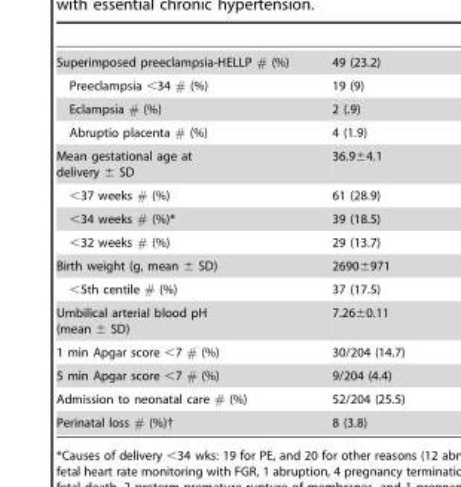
<table><tbody><tr><td>Superimposed preeclampsia-HELLP # (%)</td><td>49 (23.2)</td></tr><tr><td>Preeclampsia &lt;34 # (%)</td><td>19 (9)</td></tr><tr><td>Eclampsia # (%)</td><td>2 (.9)</td></tr><tr><td>Abruptio placenta # (%)</td><td>4 (1.9)</td></tr><tr><td>Mean gestational age at delivery ± SD</td><td>36.9±4.1</td></tr><tr><td>&lt;37 weeks # (%)</td><td>61 (28.9)</td></tr><tr><td>&lt;34 weeks # (%)*</td><td>39 (18.5)</td></tr><tr><td>&lt;32 weeks # (%)</td><td>29 (13.7)</td></tr><tr><td>Birth weight (g, mean ± SD)</td><td>2690±971</td></tr><tr><td>&lt;5th centile # (%)</td><td>37 (17.5)</td></tr><tr><td>Umbilical arterial blood pH (mean ± SD)</td><td>7.26±0.11</td></tr><tr><td>1 min Apgar score &lt;7 # (%)</td><td>30/204 (14.7)</td></tr><tr><td>5 min Apgar score &lt;7 # (%)</td><td>9/204 (4.4)</td></tr><tr><td>Admission to neonatal care # (%)</td><td>52/204 (25.5)</td></tr><tr><td>Perinatal loss # (%)†</td><td>8 (3.8)</td></tr></tbody></table>